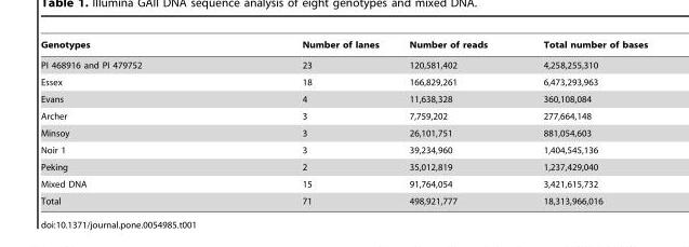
<table><thead><tr><td>Genotypes</td><td>Number of lanes</td><td>Number of reads</td><td>Total number of bases</td></tr></thead><tbody><tr><td>PI 468916 and PI 479752</td><td>23</td><td>120,581,402</td><td>4,258,255,310</td></tr><tr><td>Essex</td><td>18</td><td>166,829,261</td><td>6,473,293,963</td></tr><tr><td>Evans</td><td>4</td><td>11,638,328</td><td>360,108,084</td></tr><tr><td>Archer</td><td>3</td><td>7,759,202</td><td>277,664,148</td></tr><tr><td>Minsoy</td><td>3</td><td>26,101,751</td><td>881,054,603</td></tr><tr><td>Noir 1</td><td>3</td><td>39,234,960</td><td>1,404,545,136</td></tr><tr><td>Peking</td><td>2</td><td>35,012,819</td><td>1,237,429,040</td></tr><tr><td>Mixed DNA</td><td>15</td><td>91,764,054</td><td>3,421,615,732</td></tr><tr><td>Total</td><td>71</td><td>498,921,777</td><td>18,313,966,016</td></tr></tbody></table>